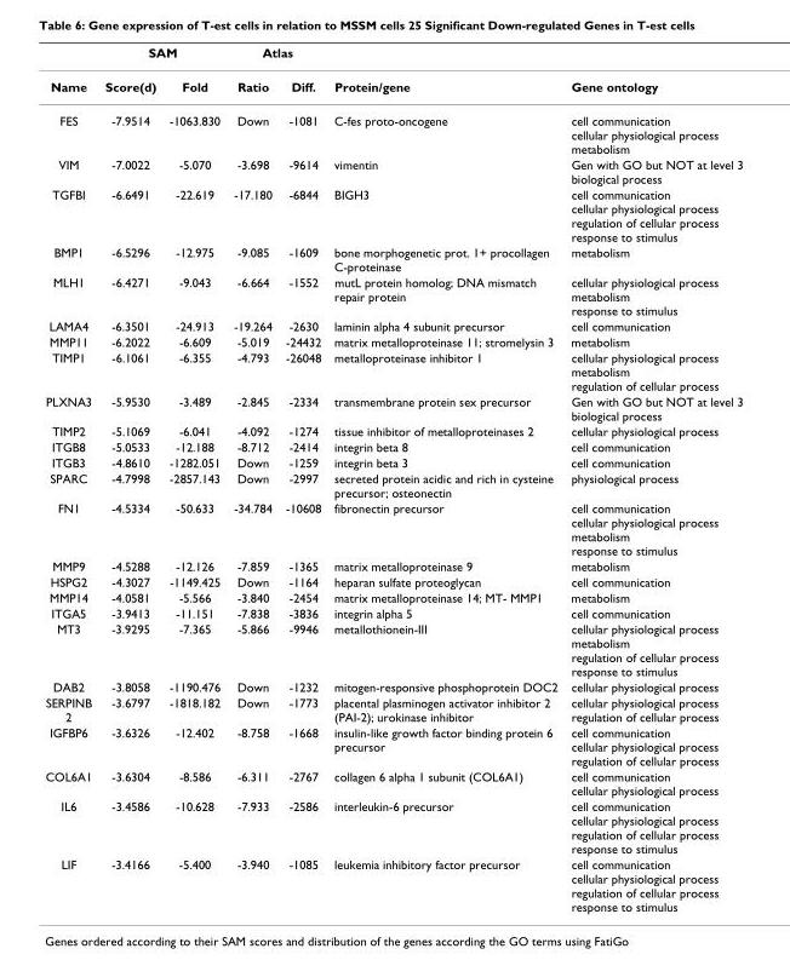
<table><thead><tr><td rowspan="2">Name</td><td colspan="2">SAM</td><td colspan="2">Atlas</td><td rowspan="2">Protein/gene</td><td rowspan="2">Gene ontology</td></tr><tr><td>Score(d)</td><td>Fold</td><td>Ratio</td><td>Diff.</td></tr></thead><tbody><tr><td>FES</td><td>-7.9514</td><td>-1063.830</td><td>Down</td><td>-1081</td><td>C-fes proto-oncogene</td><td>cell communication cellular physiological process metabolism</td></tr><tr><td>VIM</td><td>-7.0022</td><td>-5.070</td><td>-3.698</td><td>-9614</td><td>vimentin</td><td>Gen with GO but NOT at level 3 biological process</td></tr><tr><td>TGFBI</td><td>-6.6491</td><td>-22.619</td><td>-17.180</td><td>-6844</td><td>BIGH3</td><td>cell communication cellular physiological process regulation of cellular process response to stimulus</td></tr><tr><td>BMP1</td><td>-6.5296</td><td>-12.975</td><td>-9.085</td><td>-1609</td><td>bone morphogenetic prot. 1+ procollagen C-proteinase</td><td>metabolism</td></tr><tr><td>MLH1</td><td>-6.4271</td><td>-9.043</td><td>-6.664</td><td>-1552</td><td>mutL protein homolog; DNA mismatch repair protein</td><td>cellular physiological process metabolism response to stimulus</td></tr><tr><td>LAMA4</td><td>-6.3501</td><td>-24.913</td><td>-19.264</td><td>-2630</td><td>laminin alpha 4 subunit precursor</td><td>cell communication</td></tr><tr><td>MMP11</td><td>-6.2022</td><td>-6.609</td><td>-5.019</td><td>-24432</td><td>matrix metalloproteinase 11; stromelysin 3</td><td>metabolism</td></tr><tr><td>TIMP1</td><td>-6.1061</td><td>-6.355</td><td>-4.793</td><td>-26048</td><td>metalloproteinase inhibitor 1</td><td>cellular physiological process metabolism regulation of cellular process</td></tr><tr><td>PLXNA3</td><td>-5.9530</td><td>-3.489</td><td>-2.845</td><td>-2334</td><td>transmembrane protein sex precursor</td><td>Gen with GO but NOT at level 3 biological process</td></tr><tr><td>TIMP2</td><td>-5.1069</td><td>-6.041</td><td>-4.092</td><td>-1274</td><td>tissue inhibitor of metalloproteinases 2</td><td>cellular physiological process</td></tr><tr><td>ITGB8</td><td>-5.0533</td><td>-12.188</td><td>-8.712</td><td>-2414</td><td>integrin beta 8</td><td>cell communication</td></tr><tr><td>ITGB3</td><td>-4.8610</td><td>-1282.051</td><td>Down</td><td>-1259</td><td>integrin beta 3</td><td>cell communication</td></tr><tr><td>SPARC</td><td>-4.7998</td><td>-2857.143</td><td>Down</td><td>-2997</td><td>secreted protein acidic and rich in cysteine precursor; osteonectin</td><td>physiological process</td></tr><tr><td>FN1</td><td>-4.5334</td><td>-50.633</td><td>-34.784</td><td>-10608</td><td>fibronectin precursor</td><td>cell communication cellular physiological process metabolism response to stimulus</td></tr><tr><td>MMP9</td><td>-4.5288</td><td>-12.126</td><td>-7.859</td><td>-1365</td><td>matrix metalloproteinase 9</td><td>metabolism</td></tr><tr><td>HSPG2</td><td>-4.3027</td><td>-1149.425</td><td>Down</td><td>-1164</td><td>heparan sulfate proteoglycan</td><td>cell communication</td></tr><tr><td>MMP14</td><td>-4.0581</td><td>-5.566</td><td>-3.840</td><td>-2454</td><td>matrix metalloproteinase 14; MT- MMP1</td><td>metabolism</td></tr><tr><td>ITGA5</td><td>-3.9413</td><td>-11.151</td><td>-7.838</td><td>-3836</td><td>integrin alpha 5</td><td>cell communication</td></tr><tr><td>MT3</td><td>-3.9295</td><td>-7.365</td><td>-5.866</td><td>-9946</td><td>metallothionein-III</td><td>cellular physiological process metabolism regulation of cellular process response to stimulus</td></tr><tr><td>DAB2</td><td>-3.8058</td><td>-1190.476</td><td>Down</td><td>-1232</td><td>mitogen-responsive phosphoprotein DOC2</td><td>cellular physiological process</td></tr><tr><td>SERPINB 2</td><td>-3.6797</td><td>-1818.182</td><td>Down</td><td>-1773</td><td>placental plasminogen activator inhibitor 2 (PAI-2); urokinase inhibitor</td><td>cellular physiological process regulation of cellular process</td></tr><tr><td>IGFBP6</td><td>-3.6326</td><td>-12.402</td><td>-8.758</td><td>-1668</td><td>insulin-like growth factor binding protein 6 precursor</td><td>cell communication cellular physiological process regulation of cellular process</td></tr><tr><td>COL6A1</td><td>-3.6304</td><td>-8.586</td><td>-6.311</td><td>-2767</td><td>collagen 6 alpha 1 subunit (COL6A1)</td><td>cell communication cellular physiological process</td></tr><tr><td>IL6</td><td>-3.4586</td><td>-10.628</td><td>-7.933</td><td>-2586</td><td>interleukin-6 precursor</td><td>cell communication cellular physiological process regulation of cellular process response to stimulus</td></tr><tr><td>LIF</td><td>-3.4166</td><td>-5.400</td><td>-3.940</td><td>-1085</td><td>leukemia inhibitory factor precursor</td><td>cell communication cellular physiological process regulation of cellular process response to stimulus</td></tr></tbody></table>